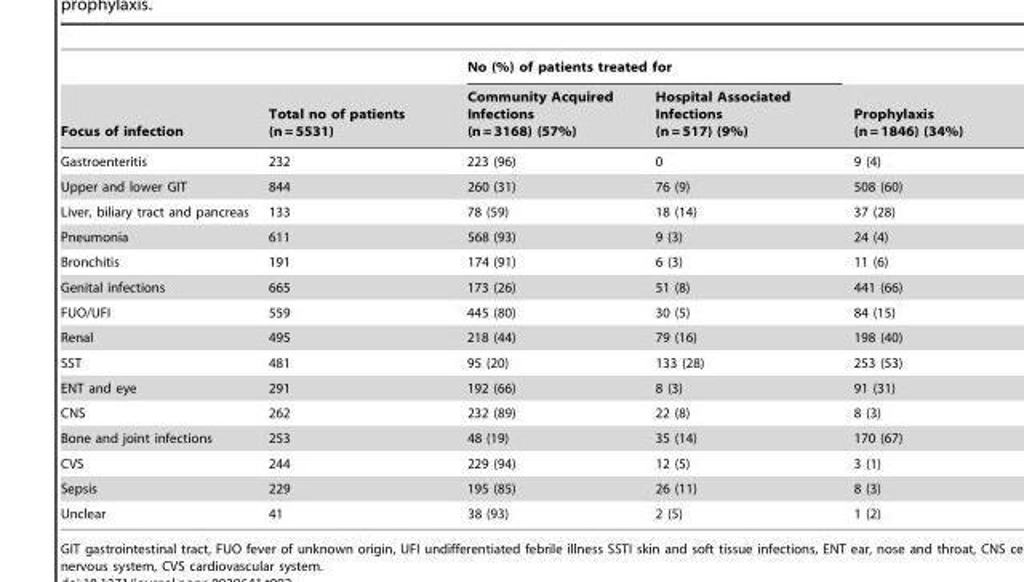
<table><thead><tr><td rowspan="2">Focus of infection</td><td rowspan="2">Total no of patients (n = 5531)</td><td colspan="2">No (%) of patients treated for</td><td rowspan="2">Prophylaxis (n = 1846) (34%)</td></tr><tr><td>Community Acquired Infections (n = 3168) (57%)</td><td>Hospital Associated Infections (n = 517) (9%)</td></tr></thead><tbody><tr><td>Gastroenteritis</td><td>232</td><td>223 (96)</td><td>0</td><td>9 (4)</td></tr><tr><td>Upper and lower GIT</td><td>844</td><td>260 (31)</td><td>76 (9)</td><td>508 (60)</td></tr><tr><td>Liver, biliary tract and pancreas</td><td>133</td><td>78 (59)</td><td>18 (14)</td><td>37 (28)</td></tr><tr><td>Pneumonia</td><td>611</td><td>568 (93)</td><td>9 (3)</td><td>24 (4)</td></tr><tr><td>Bronchitis</td><td>191</td><td>174 (91)</td><td>6 (3)</td><td>11 (6)</td></tr><tr><td>Genital infections</td><td>665</td><td>173 (26)</td><td>51 (8)</td><td>441 (66)</td></tr><tr><td>FUO/UFI</td><td>559</td><td>445 (80)</td><td>30 (5)</td><td>84 (15)</td></tr><tr><td>Renal</td><td>495</td><td>218 (44)</td><td>79 (16)</td><td>198 (40)</td></tr><tr><td>SST</td><td>481</td><td>95 (20)</td><td>133 (28)</td><td>253 (53)</td></tr><tr><td>ENT and eye</td><td>291</td><td>192 (66)</td><td>8 (3)</td><td>91 (31)</td></tr><tr><td>CNS</td><td>262</td><td>232 (89)</td><td>22 (8)</td><td>8 (3)</td></tr><tr><td>Bone and joint infections</td><td>253</td><td>48 (19)</td><td>35 (14)</td><td>170 (67)</td></tr><tr><td>CVS</td><td>244</td><td>229 (94)</td><td>12 (5)</td><td>3 (1)</td></tr><tr><td>Sepsis</td><td>229</td><td>195 (85)</td><td>26 (11)</td><td>8 (3)</td></tr><tr><td>Unclear</td><td>41</td><td>38 (93)</td><td>2 (5)</td><td>1 (2)</td></tr></tbody></table>